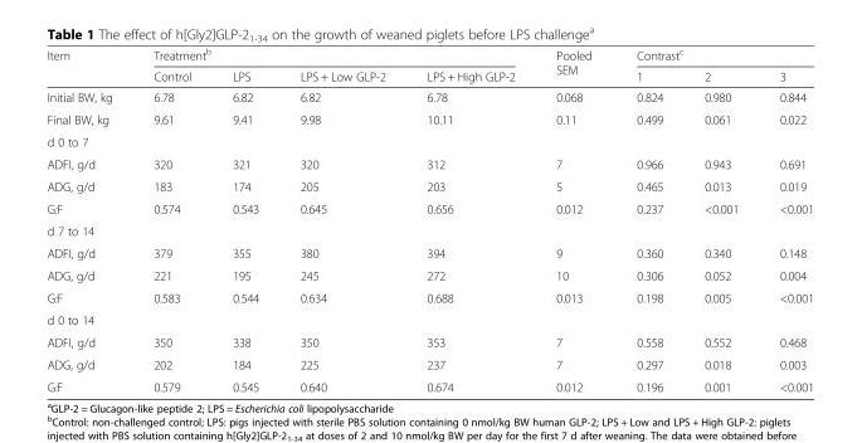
<table><thead><tr><td rowspan="2">Item</td><td colspan="4">Treatment<sup>b</sup></td><td rowspan="2">Pooled SEM</td><td colspan="3">Contrast<sup>c</sup></td></tr><tr><td>Control</td><td>LPS</td><td>LPS + Low GLP-2</td><td>LPS + High GLP-2</td><td>1</td><td>2</td><td>3</td></tr></thead><tbody><tr><td>Initial BW, kg</td><td>6.78</td><td>6.82</td><td>6.82</td><td>6.78</td><td>0.068</td><td>0.824</td><td>0.980</td><td>0.844</td></tr><tr><td>Final BW, kg</td><td>9.61</td><td>9.41</td><td>9.98</td><td>10.11</td><td>0.11</td><td>0.499</td><td>0.061</td><td>0.022</td></tr><tr><td colspan="9">d 0 to 7</td></tr><tr><td>ADFI, g/d</td><td>320</td><td>321</td><td>320</td><td>312</td><td>7</td><td>0.966</td><td>0.943</td><td>0.691</td></tr><tr><td>ADG, g/d</td><td>183</td><td>174</td><td>205</td><td>203</td><td>5</td><td>0.465</td><td>0.013</td><td>0.019</td></tr><tr><td>G:F</td><td>0.574</td><td>0.543</td><td>0.645</td><td>0.656</td><td>0.012</td><td>0.237</td><td>&lt;0.001</td><td>&lt;0.001</td></tr><tr><td colspan="9">d 7 to 14</td></tr><tr><td>ADFI, g/d</td><td>379</td><td>355</td><td>380</td><td>394</td><td>9</td><td>0.360</td><td>0.340</td><td>0.148</td></tr><tr><td>ADG, g/d</td><td>221</td><td>195</td><td>245</td><td>272</td><td>10</td><td>0.306</td><td>0.052</td><td>0.004</td></tr><tr><td>G:F</td><td>0.583</td><td>0.544</td><td>0.634</td><td>0.688</td><td>0.013</td><td>0.198</td><td>0.005</td><td>&lt;0.001</td></tr><tr><td colspan="9">d 0 to 14</td></tr><tr><td>ADFI, g/d</td><td>350</td><td>338</td><td>350</td><td>353</td><td>7</td><td>0.558</td><td>0.552</td><td>0.468</td></tr><tr><td>ADG, g/d</td><td>202</td><td>184</td><td>225</td><td>237</td><td>7</td><td>0.297</td><td>0.018</td><td>0.003</td></tr><tr><td>G:F</td><td>0.579</td><td>0.545</td><td>0.640</td><td>0.674</td><td>0.012</td><td>0.196</td><td>0.001</td><td>&lt;0.001</td></tr></tbody></table>